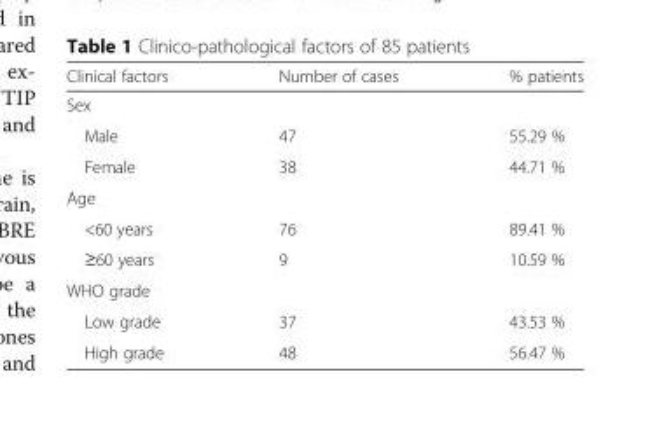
<table><thead><tr><td>Clinical factors</td><td>Number of cases</td><td>% patients</td></tr></thead><tbody><tr><td colspan="3">Sex</td></tr><tr><td>Male</td><td>47</td><td>55.29 %</td></tr><tr><td>Female</td><td>38</td><td>44.71 %</td></tr><tr><td colspan="3">Age</td></tr><tr><td>&lt;60 years</td><td>76</td><td>89.41 %</td></tr><tr><td>≥60 years</td><td>9</td><td>10.59 %</td></tr><tr><td colspan="3">WHO grade</td></tr><tr><td>Low grade</td><td>37</td><td>43.53 %</td></tr><tr><td>High grade</td><td>48</td><td>56.47 %</td></tr></tbody></table>